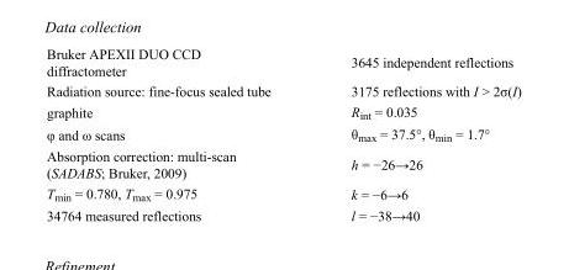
<table><tbody><tr><td>Bruker APEXII DUO CCD diffractometer</td><td>3645 independent reflections</td></tr><tr><td>Radiation source: fine-focus sealed tube</td><td>3175 reflections with I &gt; 2σ(I)</td></tr><tr><td>graphite</td><td>R<sub>int</sub> = 0.035</td></tr><tr><td>φ and ω scans</td><td>θ<sub>max</sub> = 37.5°, θ<sub>min</sub> = 1.7°</td></tr><tr><td>Absorption correction: multi-scan (SADABS; Bruker, 2009)</td><td>h = −26→26</td></tr><tr><td>T<sub>min</sub> = 0.780, T<sub>max</sub> = 0.975</td><td>k = −6→6</td></tr><tr><td>34764 measured reflections</td><td>l = −38→40</td></tr></tbody></table>